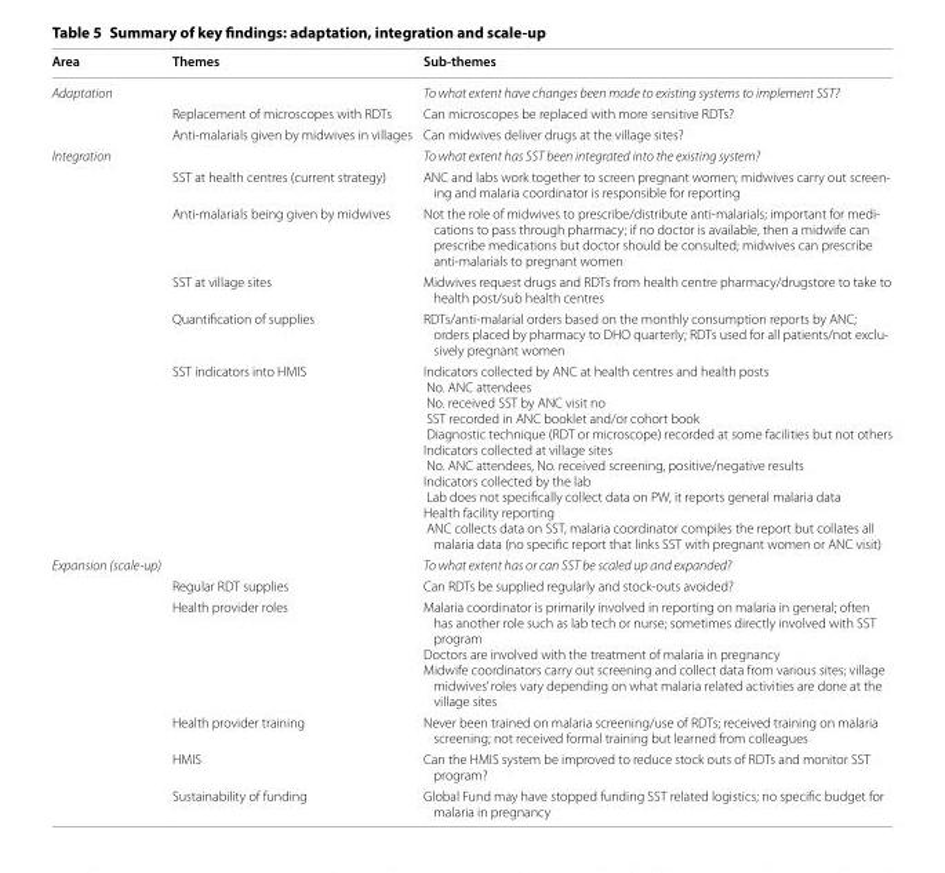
<table><thead><tr><td>Area</td><td>Themes</td><td>Sub-themes</td></tr></thead><tbody><tr><td rowspan="3">Adaptation</td><td></td><td>To what extent have changes been made to existing systems to implement SST?</td></tr><tr><td>Replacement of microscopes with RDTs</td><td>Can microscopes be replaced with more sensitive RDTs?</td></tr><tr><td>Anti-malarials given by midwives in villages</td><td>Can midwives deliver drugs at the village sites?</td></tr><tr><td rowspan="6">Integration</td><td></td><td>To what extent has SST been integrated into the existing system?</td></tr><tr><td>SST at health centres (current strategy)</td><td>ANC and labs work together to screen pregnant women; midwives carry out screen- ing and malaria coordinator is responsible for reporting</td></tr><tr><td>Anti-malarials being given by midwives</td><td>Not the role of midwives to prescribe/distribute anti-malarials; important for medi- cations to pass through pharmacy; if no doctor is available, then a midwife can prescribe medications but doctor should be consulted; midwives can prescribe anti-malarials to pregnant women</td></tr><tr><td>SST at village sites</td><td>Midwives request drugs and RDTs from health centre pharmacy/drugstore to take to health post/sub health centres</td></tr><tr><td>Quantification of supplies</td><td>RDTs/anti-malarial orders based on the monthly consumption reports by ANC; orders placed by pharmacy to DHO quarterly; RDTs used for all patients/not exclu- sively pregnant women</td></tr><tr><td>SST indicators into HMIS</td><td>Indicators collected by ANC at health centres and health posts No. ANC attendees No. received SST by ANC visit no SST recorded in ANC booklet and/or cohort book Diagnostic technique (RDT or microscope) recorded at some facilities but not others Indicators collected at village sites No. ANC attendees, No. received screening, positive/negative results Indicators collected by the lab Lab does not specifically collect data on PW, it reports general malaria data Health facility reporting ANC collects data on SST, malaria coordinator compiles the report but collates all malaria data (no specific report that links SST with pregnant women or ANC visit)</td></tr><tr><td rowspan="6">Expansion (scale-up)</td><td></td><td>To what extent has or can SST be scaled up and expanded?</td></tr><tr><td>Regular RDT supplies</td><td>Can RDTs be supplied regularly and stock-outs avoided?</td></tr><tr><td>Health provider roles</td><td>Malaria coordinator is primarily involved in reporting on malaria in general; often has another role such as lab tech or nurse; sometimes directly involved with SST program Doctors are involved with the treatment of malaria in pregnancy Midwife coordinators carry out screening and collect data from various sites; village midwives’ roles vary depending on what malaria related activities are done at the village sites</td></tr><tr><td>Health provider training</td><td>Never been trained on malaria screening/use of RDTs; received training on malaria screening; not received formal training but learned from colleagues</td></tr><tr><td>HMIS</td><td>Can the HMIS system be improved to reduce stock outs of RDTs and monitor SST program?</td></tr><tr><td>Sustainability of funding</td><td>Global Fund may have stopped funding SST related logistics; no specific budget for malaria in pregnancy</td></tr></tbody></table>